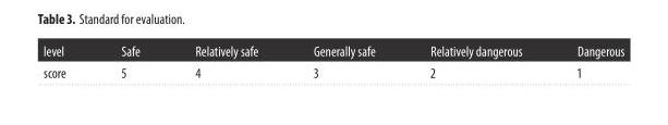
<table><thead><tr><td>level</td><td>Safe</td><td>Relatively safe</td><td>Generally safe</td><td>Relatively dangerous</td><td>Dangerous</td></tr></thead><tbody><tr><td>score</td><td>5</td><td>4</td><td>3</td><td>2</td><td>1</td></tr></tbody></table>